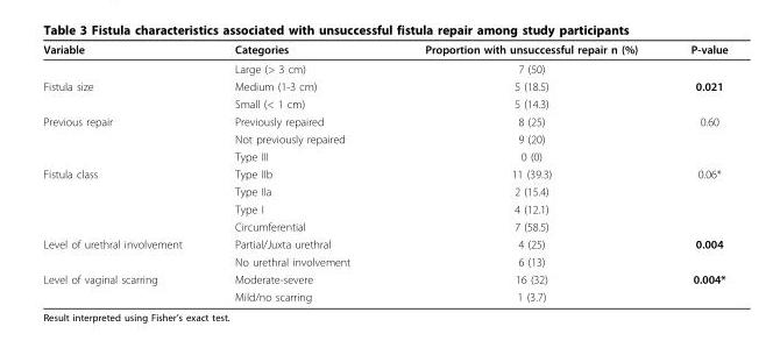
<table><thead><tr><td>Variable</td><td>Categories</td><td>Proportion with unsuccessful repair n (%)</td><td>P-value</td></tr></thead><tbody><tr><td></td><td>Large (&gt; 3 cm)</td><td>7 (50)</td><td></td></tr><tr><td rowspan="2">Fistula size</td><td>Medium (1-3 cm)</td><td>5 (18.5)</td><td>0.021</td></tr><tr><td>Small (&lt; 1 cm)</td><td>5 (14.3)</td><td></td></tr><tr><td rowspan="3">Previous repair</td><td>Previously repaired</td><td>8 (25)</td><td>0.60</td></tr><tr><td>Not previously repaired</td><td>9 (20)</td><td></td></tr><tr><td>Type III</td><td>0 (0)</td><td></td></tr><tr><td rowspan="4">Fistula class</td><td>Type IIb</td><td>11 (39.3)</td><td>0.06*</td></tr><tr><td>Type IIa</td><td>2 (15.4)</td><td></td></tr><tr><td>Type I</td><td>4 (12.1)</td><td></td></tr><tr><td>Circumferential</td><td>7 (58.5)</td><td></td></tr><tr><td rowspan="2">Level of urethral involvement</td><td>Partial/Juxta urethral</td><td>4 (25)</td><td>0.004</td></tr><tr><td>No urethral involvement</td><td>6 (13)</td><td></td></tr><tr><td rowspan="2">Level of vaginal scarring</td><td>Moderate-severe</td><td>16 (32)</td><td>0.004*</td></tr><tr><td>Mild/no scarring</td><td>1 (3.7)</td><td></td></tr></tbody></table>